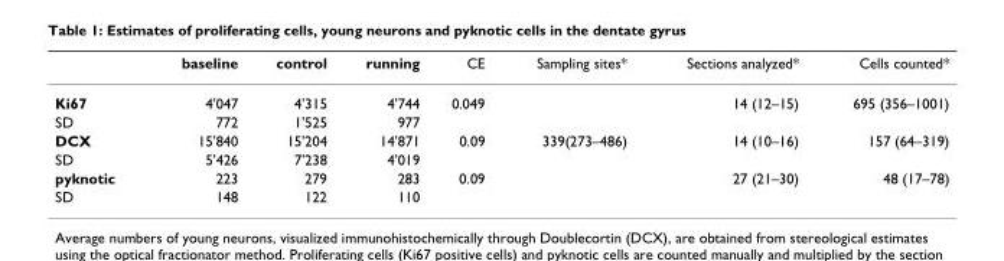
<table><thead><tr><td></td><td>baseline</td><td>control</td><td>running</td><td>CE</td><td>Sampling sites*</td><td>Sections analyzed*</td><td>Cells counted*</td></tr></thead><tbody><tr><td>Ki67</td><td>4&#x27;047</td><td>4&#x27;315</td><td>4&#x27;744</td><td>0.049</td><td></td><td>14 (12–15)</td><td>695 (356–1001)</td></tr><tr><td>SD</td><td>772</td><td>1&#x27;525</td><td>977</td><td></td><td></td><td></td><td></td></tr><tr><td>DCX</td><td>15&#x27;840</td><td>15&#x27;204</td><td>14&#x27;871</td><td>0.09</td><td>339(273–486)</td><td>14 (10–16)</td><td>157 (64–319)</td></tr><tr><td>SD</td><td>5&#x27;426</td><td>7&#x27;238</td><td>4&#x27;019</td><td></td><td></td><td></td><td></td></tr><tr><td>pyknotic</td><td>223</td><td>279</td><td>283</td><td>0.09</td><td></td><td>27 (21–30)</td><td>48 (17–78)</td></tr><tr><td>SD</td><td>148</td><td>122</td><td>110</td><td></td><td></td><td></td><td></td></tr></tbody></table>